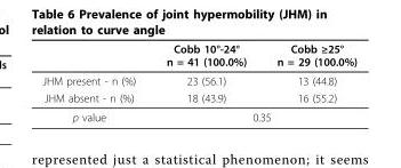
<table><thead><tr><td></td><td>Cobb 10°-24° n = 41 (100.0%)</td><td>Cobb ≥25° n = 29 (100.0%)</td></tr></thead><tbody><tr><td>JHM present - n (%)</td><td>23 (56.1)</td><td>13 (44.8)</td></tr><tr><td>JHM absent - n (%)</td><td>18 (43.9)</td><td>16 (55.2)</td></tr><tr><td>p value</td><td colspan="2">0.35</td></tr></tbody></table>